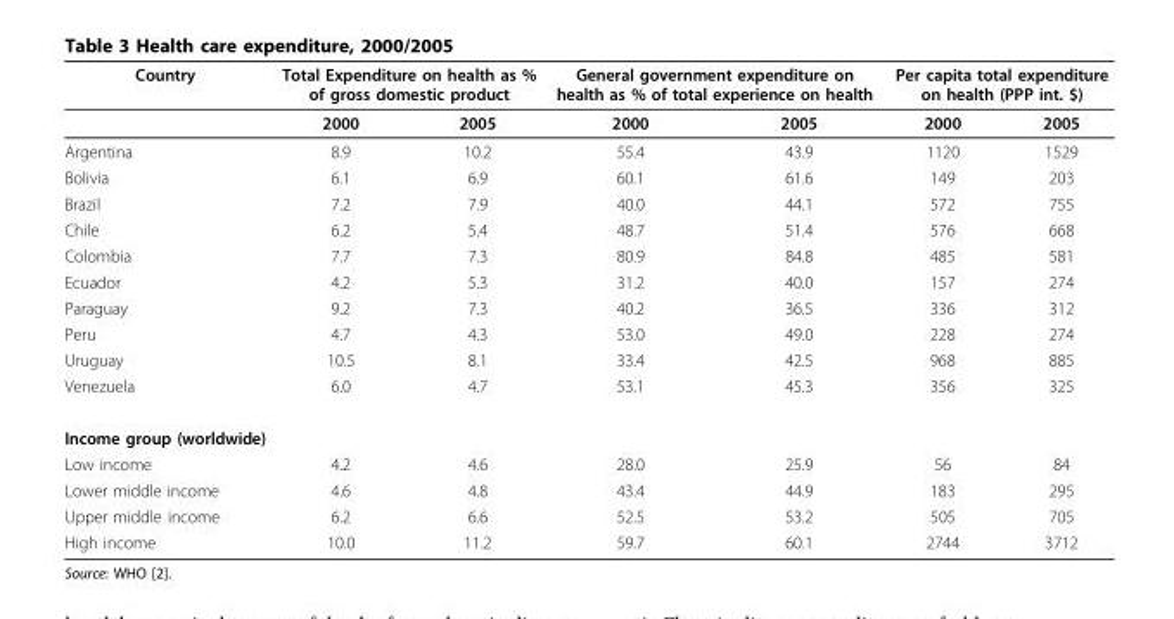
<table><thead><tr><td rowspan="2">Country</td><td colspan="2">Total Expenditure on health as % of gross domestic product</td><td colspan="2">General government expenditure on health as % of total experience on health</td><td colspan="2">Per capita total expenditure on health (PPP int. $)</td></tr><tr><td>2000</td><td>2005</td><td>2000</td><td>2005</td><td>2000</td><td>2005</td></tr></thead><tbody><tr><td>Argentina</td><td>8.9</td><td>10.2</td><td>55.4</td><td>43.9</td><td>1120</td><td>1529</td></tr><tr><td>Bolivia</td><td>6.1</td><td>6.9</td><td>60.1</td><td>61.6</td><td>149</td><td>203</td></tr><tr><td>Brazil</td><td>7.2</td><td>7.9</td><td>40.0</td><td>44.1</td><td>572</td><td>755</td></tr><tr><td>Chile</td><td>6.2</td><td>5.4</td><td>48.7</td><td>51.4</td><td>576</td><td>668</td></tr><tr><td>Colombia</td><td>7.7</td><td>7.3</td><td>80.9</td><td>84.8</td><td>485</td><td>581</td></tr><tr><td>Ecuador</td><td>4.2</td><td>5.3</td><td>31.2</td><td>40.0</td><td>157</td><td>274</td></tr><tr><td>Paraguay</td><td>9.2</td><td>7.3</td><td>40.2</td><td>36.5</td><td>336</td><td>312</td></tr><tr><td>Peru</td><td>4.7</td><td>4.3</td><td>53.0</td><td>49.0</td><td>228</td><td>274</td></tr><tr><td>Uruguay</td><td>10.5</td><td>8.1</td><td>33.4</td><td>42.5</td><td>968</td><td>885</td></tr><tr><td>Venezuela</td><td>6.0</td><td>4.7</td><td>53.1</td><td>45.3</td><td>356</td><td>325</td></tr><tr><td colspan="7">Income group (worldwide)</td></tr><tr><td>Low income</td><td>4.2</td><td>4.6</td><td>28.0</td><td>25.9</td><td>56</td><td>84</td></tr><tr><td>Lower middle income</td><td>4.6</td><td>4.8</td><td>43.4</td><td>44.9</td><td>183</td><td>295</td></tr><tr><td>Upper middle income</td><td>6.2</td><td>6.6</td><td>52.5</td><td>53.2</td><td>505</td><td>705</td></tr><tr><td>High income</td><td>10.0</td><td>11.2</td><td>59.7</td><td>60.1</td><td>2744</td><td>3712</td></tr></tbody></table>